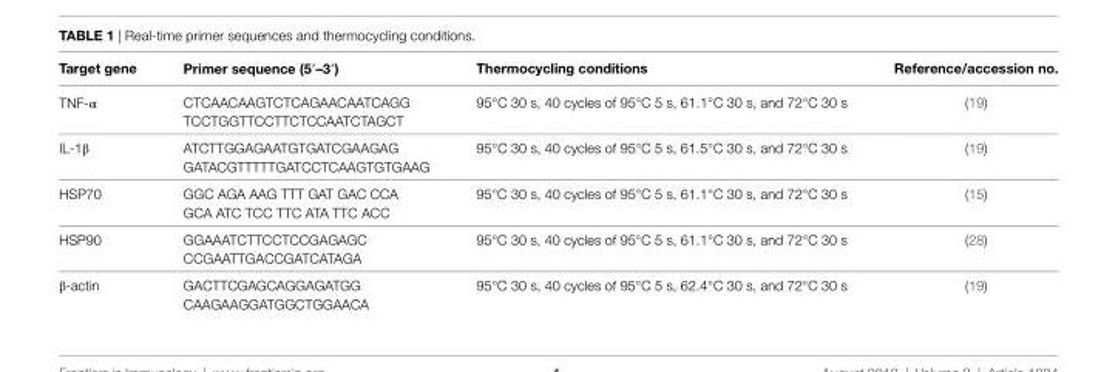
<table><thead><tr><td>Target gene</td><td>Primer sequence (5′–3′)</td><td>Thermocycling conditions</td><td>reference/accession no.</td></tr></thead><tbody><tr><td>TNF-α</td><td>CTCAACAAGTCTCAGAACAATCAGG TCCTGGTTCCTTCTCCAATCTAGCT</td><td>95°C 30 s, 40 cycles of 95°C 5 s, 61.1°C 30 s, and 72°C 30 s</td><td>(19)</td></tr><tr><td>IL-1β</td><td>ATCTTGGAGAATGTGATCGAAGAG GATACGTTTTTGATCCTCAAGTGTGAAG</td><td>95°C 30 s, 40 cycles of 95°C 5 s, 61.5°C 30 s, and 72°C 30 s</td><td>(19)</td></tr><tr><td>HSP70</td><td>GGC AGA AAG TTT GAT GAC CCA GCA ATC TCC TTC ATA TTC ACC</td><td>95°C 30 s, 40 cycles of 95°C 5 s, 61.1°C 30 s, and 72°C 30 s</td><td>(15)</td></tr><tr><td>HSP90</td><td>GGAAATCTTCCTCCGAGAGC CCGAATTGACCGATCATAGA</td><td>95°C 30 s, 40 cycles of 95°C 5 s, 61.1°C 30 s, and 72°C 30 s</td><td>(28)</td></tr><tr><td>β-actin</td><td>GACTTCGAGCAGGAGATGG CAAGAAGGATGGCTGGAACA</td><td>95°C 30 s, 40 cycles of 95°C 5 s, 62.4°C 30 s, and 72°C 30 s</td><td>(19)</td></tr></tbody></table>